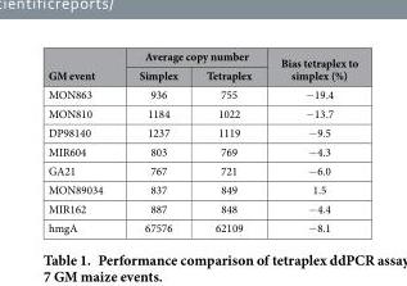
<table><thead><tr><td rowspan="2">GM event</td><td colspan="2">Average copy number</td><td rowspan="2">Bias tetraplex to simplex (%)</td></tr><tr><td>Simplex</td><td>Tetraplex</td></tr></thead><tbody><tr><td>MON863</td><td>936</td><td>755</td><td>− 19.4</td></tr><tr><td>MON810</td><td>1184</td><td>1022</td><td>− 13.7</td></tr><tr><td>DP98140</td><td>1237</td><td>1119</td><td>− 9.5</td></tr><tr><td>MIR604</td><td>803</td><td>769</td><td>− 4.3</td></tr><tr><td>GA21</td><td>767</td><td>721</td><td>− 6.0</td></tr><tr><td>MON89034</td><td>837</td><td>849</td><td>1.5</td></tr><tr><td>MIR162</td><td>887</td><td>848</td><td>− 4.4</td></tr><tr><td>hmgA</td><td>67576</td><td>62109</td><td>− 8.1</td></tr></tbody></table>